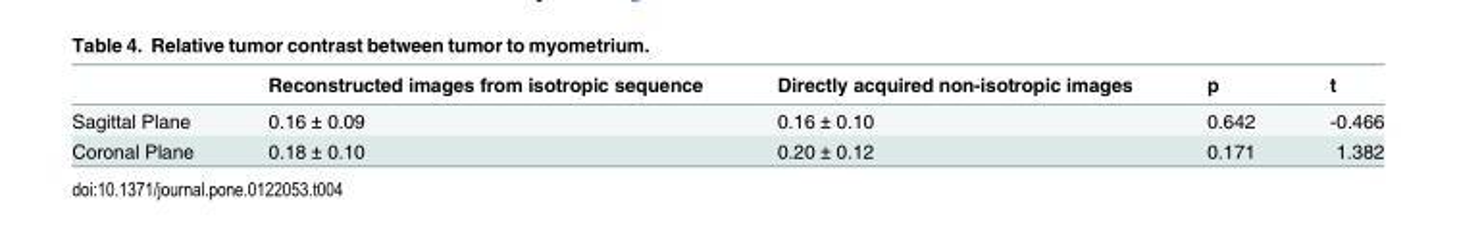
<table><thead><tr><td></td><td>Reconstructed images from isotropic sequence</td><td>Directly acquired non-isotropic images</td><td>p</td><td>t</td></tr></thead><tbody><tr><td>Sagittal Plane</td><td>0.16 ± 0.09</td><td>0.16 ± 0.10</td><td>0.642</td><td>-0.466</td></tr><tr><td>Coronal Plane</td><td>0.18 ± 0.10</td><td>0.20 ± 0.12</td><td>0.171</td><td>1.382</td></tr></tbody></table>